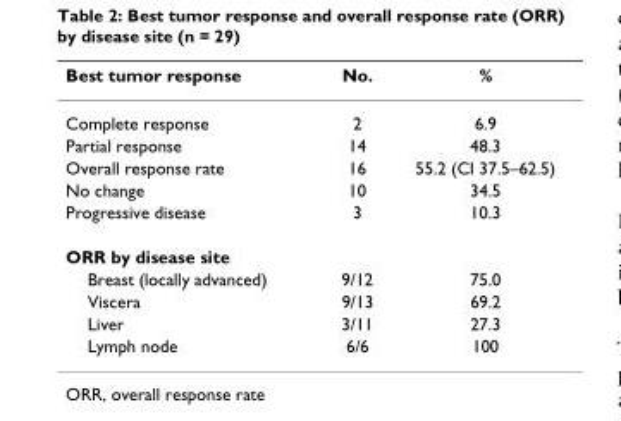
<table><thead><tr><td>Best tumor response</td><td>No.</td><td>%</td></tr></thead><tbody><tr><td>Complete response</td><td>2</td><td>6.9</td></tr><tr><td>Partial response</td><td>14</td><td>48.3</td></tr><tr><td>Overall response rate</td><td>16</td><td>55.2 (CI 37.5–62.5)</td></tr><tr><td>No change</td><td>10</td><td>34.5</td></tr><tr><td>Progressive disease</td><td>3</td><td>10.3</td></tr><tr><td colspan="3">ORR by disease site</td></tr><tr><td>Breast (locally advanced)</td><td>9/12</td><td>75.0</td></tr><tr><td>Viscera</td><td>9/13</td><td>69.2</td></tr><tr><td>Liver</td><td>3/11</td><td>27.3</td></tr><tr><td>Lymph node</td><td>6/6</td><td>100</td></tr></tbody></table>